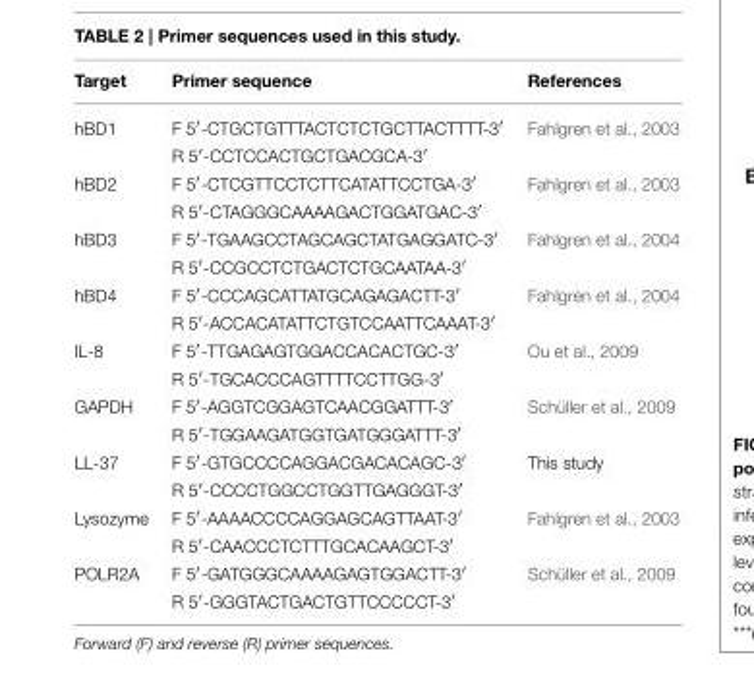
<table><thead><tr><td>Target</td><td>Primer sequence</td><td>References</td></tr></thead><tbody><tr><td rowspan="2">hBD1</td><td>F 5′-CTGCTGTTTACTCTCTGCTTACTTTT-3′</td><td>Fahlgren et al., 2003</td></tr><tr><td>R 5′-CCTCCACTGCTGACGCA-3′</td><td></td></tr><tr><td rowspan="2">hBD2</td><td>F 5′-CTCGTTCCTCTTCATATTCCTGA-3′</td><td>Fahlgren et al., 2003</td></tr><tr><td>R 5′-CTAGGGCAAAAGACTGGATGAC-3′</td><td></td></tr><tr><td rowspan="2">hBD3</td><td>F 5′-TGAAGCCTAGCAGCTATGAGGATC-3′</td><td>Fahlgren et al., 2004</td></tr><tr><td>R 5′-CCGCCTCTGACTCTGCAATAA-3′</td><td></td></tr><tr><td rowspan="2">hBD4</td><td>F 5′-CCCAGCATTATGCAGAGACTT-3′</td><td>Fahlgren et al., 2004</td></tr><tr><td>R 5′-ACCACATATTCTGTCCAATTCAAAT-3′</td><td></td></tr><tr><td rowspan="2">IL-8</td><td>F 5′-TTGAGAGTGGACCACACTGC-3′</td><td>Ou et al., 2009</td></tr><tr><td>R 5′-TGCACCCAGTTTTCCTTGG-3′</td><td></td></tr><tr><td rowspan="2">GAPDH</td><td>F 5′-AGGTCGGAGTCAACGGATTT-3′</td><td>Schüller et al., 2009</td></tr><tr><td>R 5′-TGGAAGATGGTGATGGGATTT-3′</td><td></td></tr><tr><td rowspan="2">LL-37</td><td>F 5′-GTGCCCCAGGACGACACAGC-3′</td><td>This study</td></tr><tr><td>R 5′-CCCCTGGCCTGGTTGAGGGT-3′</td><td></td></tr><tr><td rowspan="2">Lysozyme</td><td>F 5′-AAAACCCCAGGAGCAGTTAAT-3′</td><td>Fahlgren et al., 2003</td></tr><tr><td>R 5′-CAACCCTCTTTGCACAAGCT-3′</td><td></td></tr><tr><td rowspan="2">POLR2A</td><td>F 5′-GATGGGCAAAAGAGTGGACTT-3′</td><td>Schüller et al., 2009</td></tr><tr><td>R 5′-GGGTACTGACTGTTCCCCCT-3′</td><td></td></tr></tbody></table>